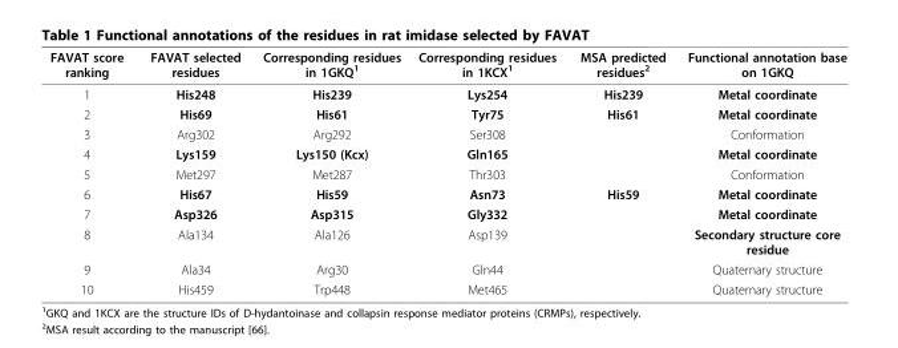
<table><thead><tr><td>FAVAT score ranking</td><td>FAVAT selected residues</td><td>Corresponding residues in 1GKQ<sup>1</sup></td><td>Corresponding residues in 1KCX<sup>1</sup></td><td>MSA predicted residues<sup>2</sup></td><td>Functional annotation base on 1GKQ</td></tr></thead><tbody><tr><td>1</td><td>His248</td><td>His239</td><td>Lys254</td><td>His239</td><td>Metal coordinate</td></tr><tr><td>2</td><td>His69</td><td>His61</td><td>Tyr75</td><td>His61</td><td>Metal coordinate</td></tr><tr><td>3</td><td>Arg302</td><td>Arg292</td><td>Ser308</td><td></td><td>Conformation</td></tr><tr><td>4</td><td>Lys159</td><td>Lys150 (Kcx)</td><td>Gln165</td><td></td><td>Metal coordinate</td></tr><tr><td>5</td><td>Met297</td><td>Met287</td><td>Thr303</td><td></td><td>Conformation</td></tr><tr><td>6</td><td>His67</td><td>His59</td><td>Asn73</td><td>His59</td><td>Metal coordinate</td></tr><tr><td>7</td><td>Asp326</td><td>Asp315</td><td>Gly332</td><td></td><td>Metal coordinate</td></tr><tr><td>8</td><td>Ala134</td><td>Ala126</td><td>Asp139</td><td></td><td>Secondary structure core residue</td></tr><tr><td>9</td><td>Ala34</td><td>Arg30</td><td>Gln44</td><td></td><td>Quaternary structure</td></tr><tr><td>10</td><td>His459</td><td>Trp448</td><td>Met465</td><td></td><td>Quaternary structure</td></tr></tbody></table>